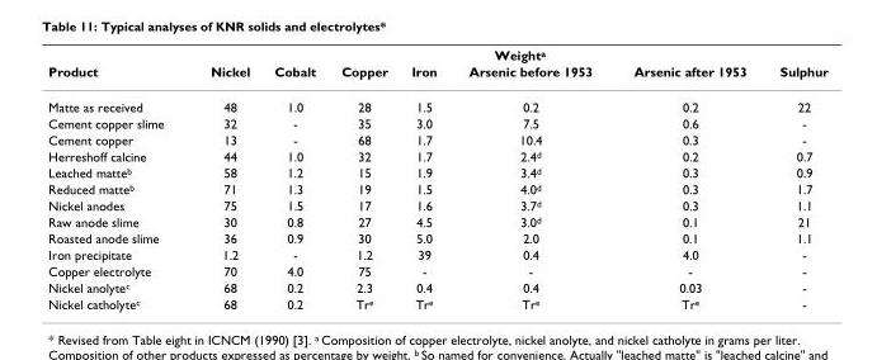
<table><thead><tr><td rowspan="2">Product</td><td colspan="7">Weight<sup>a</sup></td></tr><tr><td>Nickel</td><td>Cobalt</td><td>Copper</td><td>Iron</td><td>Arsenic before 1953</td><td>Arsenic after 1953</td><td>Sulphur</td></tr></thead><tbody><tr><td>Matte as received</td><td>48</td><td>1.0</td><td>28</td><td>1.5</td><td>0.2</td><td>0.2</td><td>22</td></tr><tr><td>Cement copper slime</td><td>32</td><td>-</td><td>35</td><td>3.0</td><td>7.5</td><td>0.6</td><td>-</td></tr><tr><td>Cement copper</td><td>13</td><td>-</td><td>68</td><td>1.7</td><td>10.4</td><td>0.3</td><td>-</td></tr><tr><td>Herreshoff calcine</td><td>44</td><td>1.0</td><td>32</td><td>1.7</td><td>2.4<sup>d</sup></td><td>0.2</td><td>0.7</td></tr><tr><td>Leached matte<sup>b</sup></td><td>58</td><td>1.2</td><td>15</td><td>1.9</td><td>3.4<sup>d</sup></td><td>0.3</td><td>0.9</td></tr><tr><td>Reduced matte<sup>b</sup></td><td>71</td><td>1.3</td><td>19</td><td>1.5</td><td>4.0<sup>d</sup></td><td>0.3</td><td>1.7</td></tr><tr><td>Nickel anodes</td><td>75</td><td>1.5</td><td>17</td><td>1.6</td><td>3.7<sup>d</sup></td><td>0.3</td><td>1.1</td></tr><tr><td>Raw anode slime</td><td>30</td><td>0.8</td><td>27</td><td>4.5</td><td>3.0<sup>d</sup></td><td>0.1</td><td>21</td></tr><tr><td>Roasted anode slime</td><td>36</td><td>0.9</td><td>30</td><td>5.0</td><td>2.0</td><td>0.1</td><td>1.1</td></tr><tr><td>Iron precipitate</td><td>1.2</td><td>-</td><td>1.2</td><td>39</td><td>0.4</td><td>4.0</td><td>-</td></tr><tr><td>Copper electrolyte</td><td>70</td><td>4.0</td><td>75</td><td>-</td><td>-</td><td>-</td><td>-</td></tr><tr><td>Nickel anolyte<sup>c</sup></td><td>68</td><td>0.2</td><td>2.3</td><td>0.4</td><td>0.4</td><td>0.03</td><td>-</td></tr><tr><td>Nickel catholyte<sup>c</sup></td><td>68</td><td>0.2</td><td>Tr<sup>e</sup></td><td>Tr<sup>e</sup></td><td>Tr<sup>e</sup></td><td>Tr<sup>e</sup></td><td>-</td></tr></tbody></table>